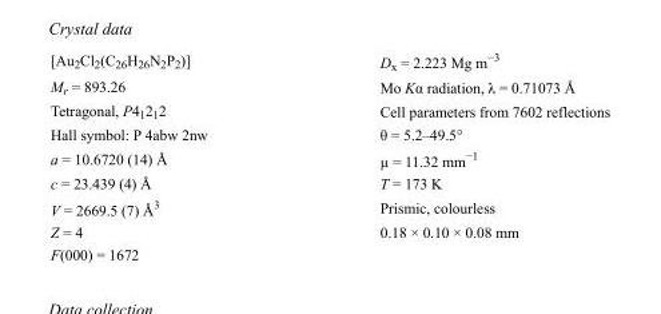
<table><tbody><tr><td>[Au<sub>2</sub>Cl<sub>2</sub>(C<sub>26</sub>H<sub>26</sub>N<sub>2</sub>P<sub>2</sub>)]</td><td>D<sub>x</sub> = 2.223 Mg m<sup>−3</sup></td></tr><tr><td>M<sub>r</sub> = 893.26</td><td>Mo Kα radiation, λ = 0.71073 Å</td></tr><tr><td>Tetragonal, P4<sub>1</sub>2<sub>1</sub>2</td><td>Cell parameters from 7602 reflections</td></tr><tr><td>Hall symbol: P 4abw 2nw</td><td>θ = 5.2–49.5°</td></tr><tr><td>a = 10.6720 (14) Å</td><td>µ = 11.32 mm<sup>−1</sup></td></tr><tr><td>c = 23.439 (4) Å</td><td>T = 173 K</td></tr><tr><td>V = 2669.5 (7) Å<sup>3</sup></td><td>Prismic, colourless</td></tr><tr><td>Z = 4</td><td>0.18 × 0.10 × 0.08 mm</td></tr><tr><td>F(000) = 1672</td><td></td></tr></tbody></table>